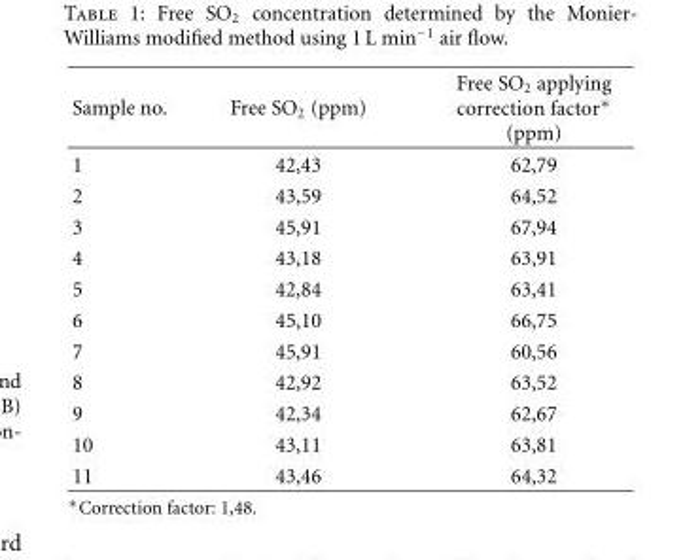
<table><thead><tr><td>Sample no.</td><td>Free SO<sub>2</sub> (ppm)</td><td>Free SO2 applying correction factor∗ (ppm)</td></tr></thead><tbody><tr><td>1</td><td>42,43</td><td>62,79</td></tr><tr><td>2</td><td>43,59</td><td>64,52</td></tr><tr><td>3</td><td>45,91</td><td>67,94</td></tr><tr><td>4</td><td>43,18</td><td>63,91</td></tr><tr><td>5</td><td>42,84</td><td>63,41</td></tr><tr><td>6</td><td>45,10</td><td>66,75</td></tr><tr><td>7</td><td>45,91</td><td>60,56</td></tr><tr><td>8</td><td>42,92</td><td>63,52</td></tr><tr><td>9</td><td>42,34</td><td>62,67</td></tr><tr><td>10</td><td>43,11</td><td>63,81</td></tr><tr><td>11</td><td>43,46</td><td>64,32</td></tr></tbody></table>